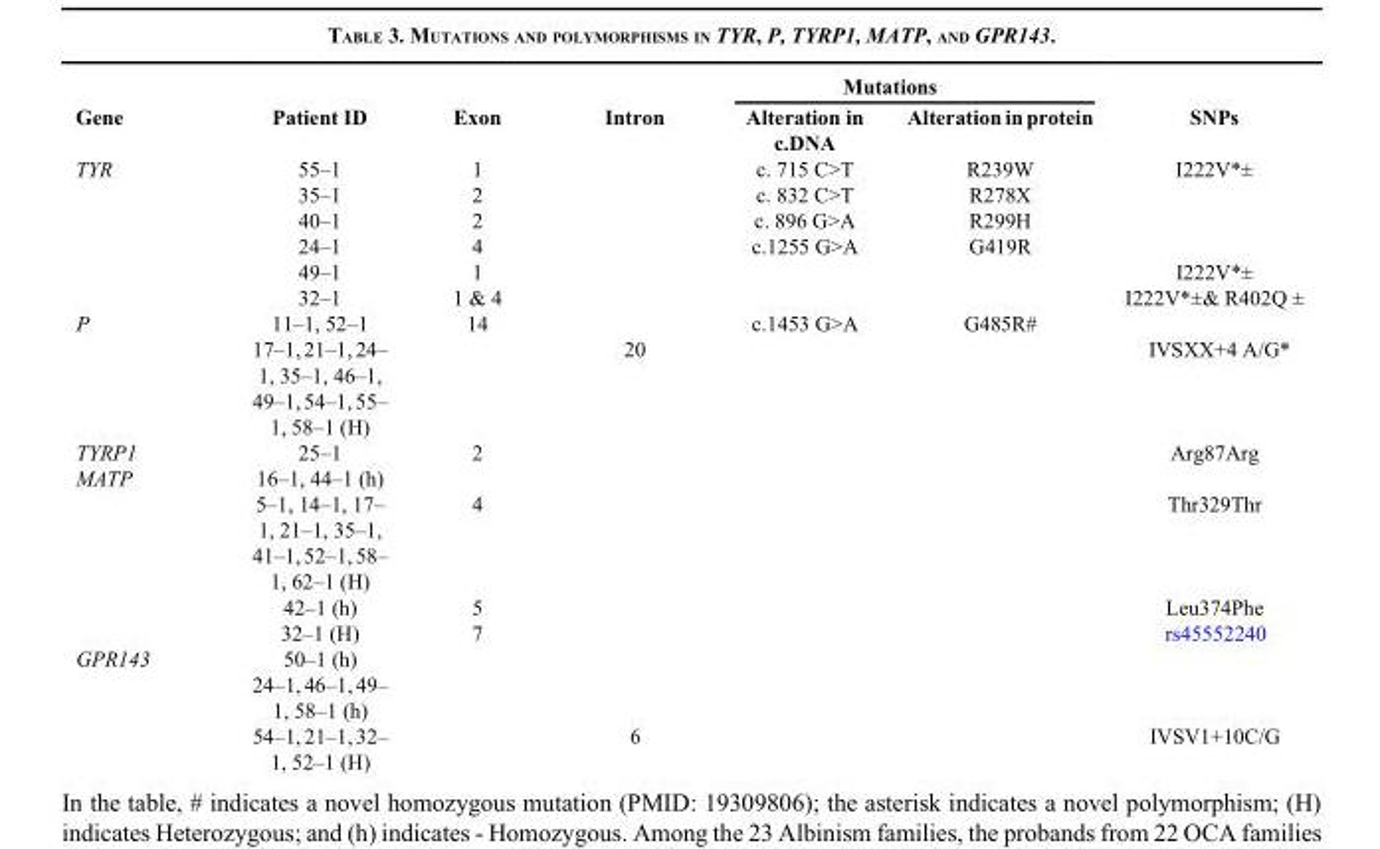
<table><thead><tr><td rowspan="2">Gene</td><td rowspan="2">Patient ID</td><td rowspan="2">Exon</td><td rowspan="2">Intron</td><td colspan="2">Mutations</td><td rowspan="2">SNPs</td></tr><tr><td>Alteration in c.DNA</td><td>Alteration in protein</td></tr></thead><tbody><tr><td rowspan="6">TYR</td><td>55–1</td><td>1</td><td></td><td>c. 715 C&gt;T</td><td>R239W</td><td>I222V*±</td></tr><tr><td>35–1</td><td>2</td><td></td><td>c. 832 C&gt;T</td><td>R278X</td><td></td></tr><tr><td>40–1</td><td>2</td><td></td><td>c. 896 G&gt;A</td><td>R299H</td><td></td></tr><tr><td>24–1</td><td>4</td><td></td><td>c.1255 G&gt;A</td><td>G419R</td><td></td></tr><tr><td>49–1</td><td>1</td><td></td><td></td><td></td><td>I222V*±</td></tr><tr><td>32–1</td><td>1 &amp; 4</td><td></td><td></td><td></td><td>I222V*±&amp; R402Q ±</td></tr><tr><td rowspan="2">P</td><td>11–1, 52–1</td><td>14</td><td></td><td>c.1453 G&gt;A</td><td>G485R#</td><td></td></tr><tr><td>17–1, 21–1, 24– 1, 35–1, 46–1, 49–1, 54–1, 55– 1, 58–1 (H)</td><td></td><td>20</td><td></td><td></td><td>IVSXX+4 A/G*</td></tr><tr><td>TYRP1</td><td>25–1</td><td>2</td><td></td><td></td><td></td><td>Arg87Arg</td></tr><tr><td rowspan="4">MATP</td><td>16–1, 44–1 (h)</td><td></td><td></td><td></td><td></td><td></td></tr><tr><td>5–1, 14–1, 17– 1, 21–1, 35–1, 41–1, 52–1, 58– 1, 62–1 (H)</td><td>4</td><td></td><td></td><td></td><td>Thr329Thr</td></tr><tr><td>42–1 (h)</td><td>5</td><td></td><td></td><td></td><td>Leu374Phe</td></tr><tr><td>32–1 (H)</td><td>7</td><td></td><td></td><td></td><td>rs45552240</td></tr><tr><td rowspan="3">GPR143</td><td>50–1 (h)</td><td></td><td></td><td></td><td></td><td></td></tr><tr><td>24–1, 46–1, 49– 1, 58–1 (h)</td><td></td><td></td><td></td><td></td><td></td></tr><tr><td>54–1, 21–1, 32– 1, 52–1 (H)</td><td></td><td>6</td><td></td><td></td><td>IVSV1+10C/G</td></tr></tbody></table>